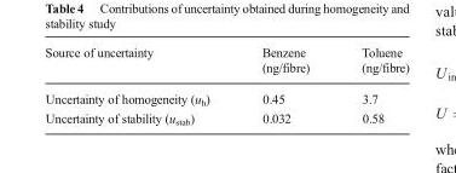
<table><thead><tr><td>Source of uncertainty</td><td>Benzene (ng/fibre)</td><td>Toluene (ng/fibre)</td></tr></thead><tbody><tr><td>Uncertainty of homogeneity (u<sub>h</sub>)</td><td>0.45</td><td>3.7</td></tr><tr><td>Uncertainty of stability (u<sub>stab</sub>)</td><td>0.032</td><td>0.58</td></tr></tbody></table>